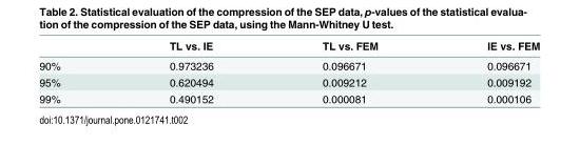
<table><thead><tr><td></td><td>TL vs. IE</td><td>TL vs. FEM</td><td>IE vs. FEM</td></tr></thead><tbody><tr><td>90%</td><td>0.973236</td><td>0.096671</td><td>0.096671</td></tr><tr><td>95%</td><td>0.620494</td><td>0.009212</td><td>0.009192</td></tr><tr><td>99%</td><td>0.490152</td><td>0.000081</td><td>0.000106</td></tr></tbody></table>